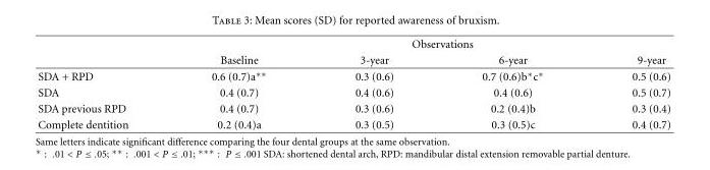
<table><thead><tr><td rowspan="2"></td><td colspan="4">Observations</td></tr><tr><td>Baseline</td><td>3-year</td><td>6-year</td><td>9-year</td></tr></thead><tbody><tr><td>SDA + RPD</td><td>0.6 (0.7)a∗∗</td><td>0.3 (0.6)</td><td>0.7 (0.6)b∗c∗</td><td>0.5 (0.6)</td></tr><tr><td>SDA</td><td>0.4 (0.7)</td><td>0.4 (0.6)</td><td>0.4 (0.6)</td><td>0.5 (0.7)</td></tr><tr><td>SDA previous RPD</td><td>0.4 (0.7)</td><td>0.3 (0.6)</td><td>0.2 (0.4)b</td><td>0.3 (0.4)</td></tr><tr><td>Complete dentition</td><td>0.2 (0.4)a</td><td>0.3 (0.5)</td><td>0.3 (0.5)c</td><td>0.4 (0.7)</td></tr></tbody></table>